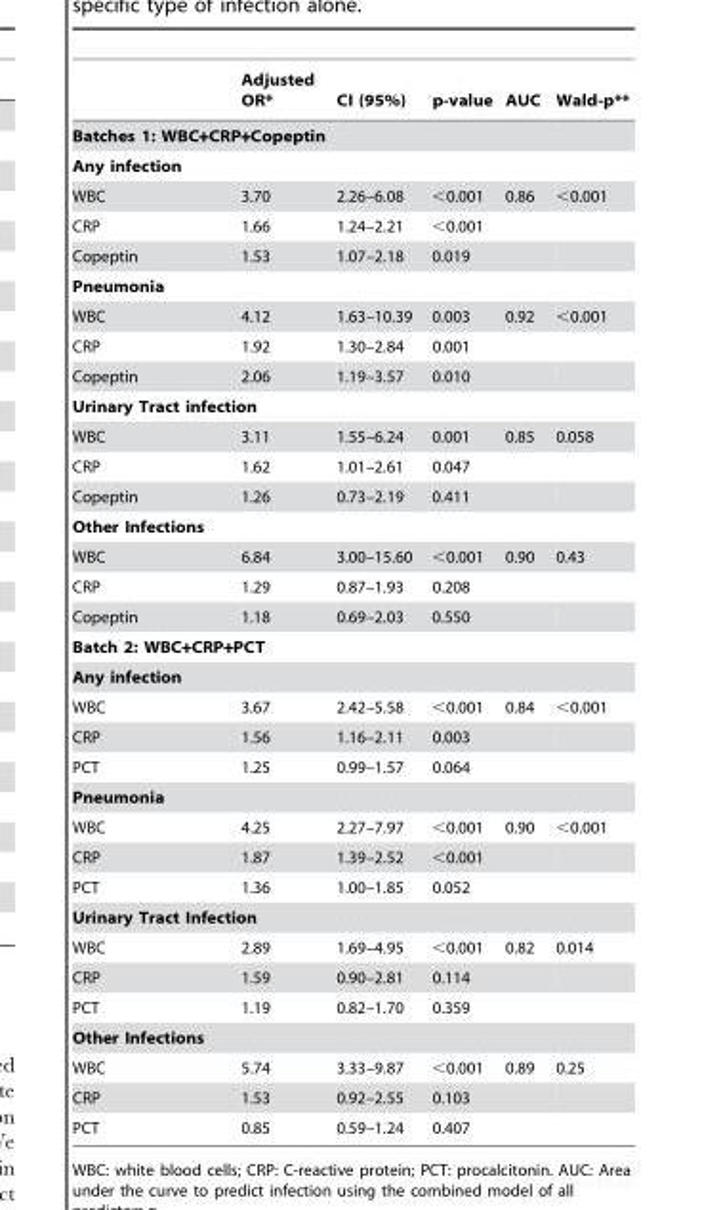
<table><thead><tr><td></td><td>Adjusted OR*</td><td>CI (95%)</td><td>p-value</td><td>AUC</td><td>Wald-p**</td></tr></thead><tbody><tr><td colspan="6">Batches 1: WBC+CRP+Copeptin</td></tr><tr><td colspan="6">Any infection</td></tr><tr><td>WBC</td><td>3.70</td><td>2.26–6.08</td><td>&lt;0.001</td><td>0.86</td><td>&lt;0.001</td></tr><tr><td>CRP</td><td>1.66</td><td>1.24–2.21</td><td>&lt;0.001</td><td></td><td></td></tr><tr><td>Copeptin</td><td>1.53</td><td>1.07–2.18</td><td>0.019</td><td></td><td></td></tr><tr><td colspan="6">Pneumonia</td></tr><tr><td>WBC</td><td>4.12</td><td>1.63–10.39</td><td>0.003</td><td>0.92</td><td>&lt;0.001</td></tr><tr><td>CRP</td><td>1.92</td><td>1.30–2.84</td><td>0.001</td><td></td><td></td></tr><tr><td>Copeptin</td><td>2.06</td><td>1.19–3.57</td><td>0.010</td><td></td><td></td></tr><tr><td colspan="6">Urinary Tract infection</td></tr><tr><td>WBC</td><td>3.11</td><td>1.55–6.24</td><td>0.001</td><td>0.85</td><td>0.058</td></tr><tr><td>CRP</td><td>1.62</td><td>1.01–2.61</td><td>0.047</td><td></td><td></td></tr><tr><td>Copeptin</td><td>1.26</td><td>0.73–2.19</td><td>0.411</td><td></td><td></td></tr><tr><td colspan="6">Other Infections</td></tr><tr><td>WBC</td><td>6.84</td><td>3.00–15.60</td><td>&lt;0.001</td><td>0.90</td><td>0.43</td></tr><tr><td>CRP</td><td>1.29</td><td>0.87–1.93</td><td>0.208</td><td></td><td></td></tr><tr><td>Copeptin</td><td>1.18</td><td>0.69–2.03</td><td>0.550</td><td></td><td></td></tr><tr><td colspan="6">Batch 2: WBC+CRP+PCT</td></tr><tr><td colspan="6">Any infection</td></tr><tr><td>WBC</td><td>3.67</td><td>2.42–5.58</td><td>&lt;0.001</td><td>0.84</td><td>&lt;0.001</td></tr><tr><td>CRP</td><td>1.56</td><td>1.16–2.11</td><td>0.003</td><td></td><td></td></tr><tr><td>PCT</td><td>1.25</td><td>0.99–1.57</td><td>0.064</td><td></td><td></td></tr><tr><td colspan="6">Pneumonia</td></tr><tr><td>WBC</td><td>4.25</td><td>2.27–7.97</td><td>&lt;0.001</td><td>0.90</td><td>&lt;0.001</td></tr><tr><td>CRP</td><td>1.87</td><td>1.39–2.52</td><td>&lt;0.001</td><td></td><td></td></tr><tr><td>PCT</td><td>1.36</td><td>1.00–1.85</td><td>0.052</td><td></td><td></td></tr><tr><td colspan="6">Urinary Tract Infection</td></tr><tr><td>WBC</td><td>2.89</td><td>1.69–4.95</td><td>&lt;0.001</td><td>0.82</td><td>0.014</td></tr><tr><td>CRP</td><td>1.59</td><td>0.90–2.81</td><td>0.114</td><td></td><td></td></tr><tr><td>PCT</td><td>1.19</td><td>0.82–1.70</td><td>0.359</td><td></td><td></td></tr><tr><td colspan="6">Other Infections</td></tr><tr><td>WBC</td><td>5.74</td><td>3.33–9.87</td><td>&lt;0.001</td><td>0.89</td><td>0.25</td></tr><tr><td>CRP</td><td>1.53</td><td>0.92–2.55</td><td>0.103</td><td></td><td></td></tr><tr><td>PCT</td><td>0.85</td><td>0.59–1.24</td><td>0.407</td><td></td><td></td></tr></tbody></table>